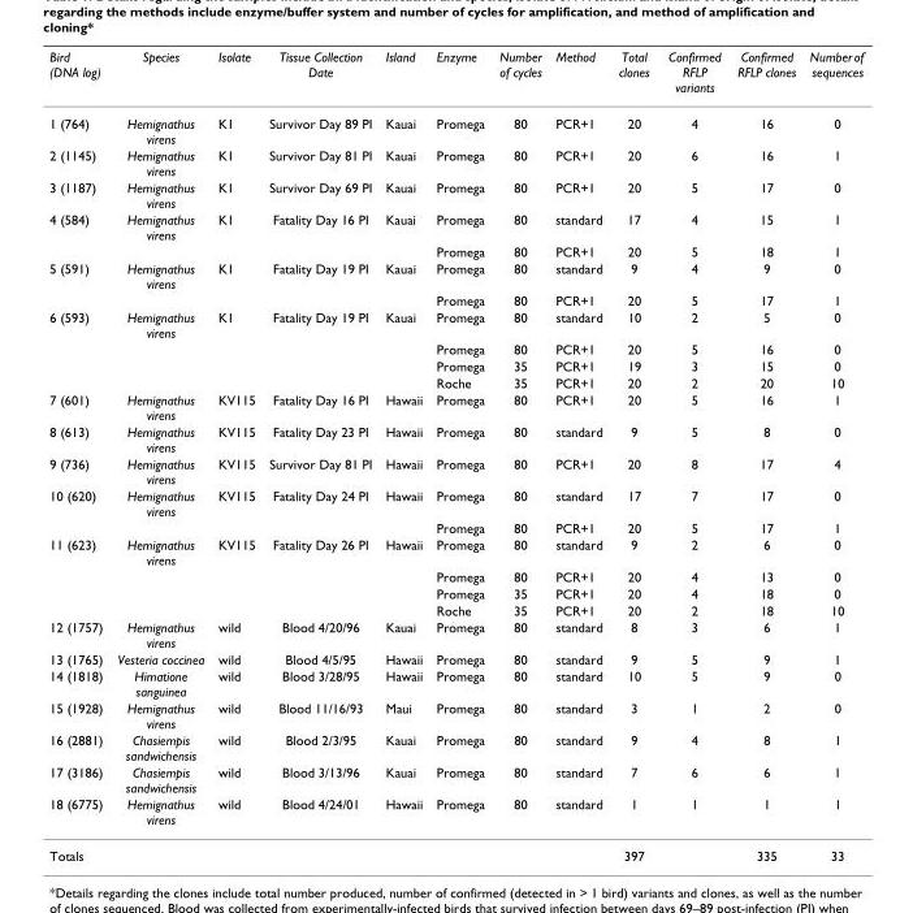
<table><thead><tr><td>Bird (DNA log)</td><td>Species</td><td>Isolate</td><td>Tissue Collection Date</td><td>Island</td><td>Enzyme</td><td>Number of cycles</td><td>Method</td><td>Total clones</td><td>Confirmed RFLP variants</td><td>Confirmed RFLP clones</td><td>Number of sequences</td></tr></thead><tbody><tr><td>1 (764)</td><td>Hemignathus virens</td><td>K1</td><td>Survivor Day 89 PI</td><td>Kauai</td><td>Promega</td><td>80</td><td>PCR+1</td><td>20</td><td>4</td><td>16</td><td>0</td></tr><tr><td>2 (1145)</td><td>Hemignathus virens</td><td>K1</td><td>Survivor Day 81 PI</td><td>Kauai</td><td>Promega</td><td>80</td><td>PCR+1</td><td>20</td><td>6</td><td>16</td><td>1</td></tr><tr><td>3 (1187)</td><td>Hemignathus virens</td><td>K1</td><td>Survivor Day 69 PI</td><td>Kauai</td><td>Promega</td><td>80</td><td>PCR+1</td><td>20</td><td>5</td><td>17</td><td>0</td></tr><tr><td rowspan="2">4 (584)</td><td>Hemignathus virens</td><td>K1</td><td>Fatality Day 16 PI</td><td>Kauai</td><td>Promega</td><td>80</td><td>standard</td><td>17</td><td>4</td><td>15</td><td>1</td></tr><tr><td></td><td></td><td></td><td></td><td>Promega</td><td>80</td><td>PCR+1</td><td>20</td><td>5</td><td>18</td><td>1</td></tr><tr><td rowspan="2">5 (591)</td><td>Hemignathus virens</td><td>K1</td><td>Fatality Day 19 PI</td><td>Kauai</td><td>Promega</td><td>80</td><td>standard</td><td>9</td><td>4</td><td>9</td><td>0</td></tr><tr><td></td><td></td><td></td><td></td><td>Promega</td><td>80</td><td>PCR+1</td><td>20</td><td>5</td><td>17</td><td>1</td></tr><tr><td rowspan="4">6 (593)</td><td>Hemignathus virens</td><td>K1</td><td>Fatality Day 19 PI</td><td>Kauai</td><td>Promega</td><td>80</td><td>standard</td><td>10</td><td>2</td><td>5</td><td>0</td></tr><tr><td></td><td></td><td></td><td></td><td>Promega</td><td>80</td><td>PCR+1</td><td>20</td><td>5</td><td>16</td><td>0</td></tr><tr><td></td><td></td><td></td><td></td><td>Promega</td><td>35</td><td>PCR+1</td><td>19</td><td>3</td><td>15</td><td>0</td></tr><tr><td></td><td></td><td></td><td></td><td>Roche</td><td>35</td><td>PCR+1</td><td>20</td><td>2</td><td>20</td><td>10</td></tr><tr><td>7 (601)</td><td>Hemignathus virens</td><td>KV115</td><td>Fatality Day 16 PI</td><td>Hawaii</td><td>Promega</td><td>80</td><td>PCR+1</td><td>20</td><td>5</td><td>16</td><td>1</td></tr><tr><td>8 (613)</td><td>Hemignathus virens</td><td>KV115</td><td>Fatality Day 23 PI</td><td>Hawaii</td><td>Promega</td><td>80</td><td>standard</td><td>9</td><td>5</td><td>8</td><td>0</td></tr><tr><td>9 (736)</td><td>Hemignathus virens</td><td>KV115</td><td>Survivor Day 81 PI</td><td>Hawaii</td><td>Promega</td><td>80</td><td>PCR+1</td><td>20</td><td>8</td><td>17</td><td>4</td></tr><tr><td rowspan="2">10 (620)</td><td>Hemignathus virens</td><td>KV115</td><td>Fatality Day 24 PI</td><td>Hawaii</td><td>Promega</td><td>80</td><td>standard</td><td>17</td><td>7</td><td>17</td><td>0</td></tr><tr><td></td><td></td><td></td><td></td><td>Promega</td><td>80</td><td>PCR+1</td><td>20</td><td>5</td><td>17</td><td>1</td></tr><tr><td rowspan="4">11 (623)</td><td>Hemignathus virens</td><td>KV115</td><td>Fatality Day 26 PI</td><td>Hawaii</td><td>Promega</td><td>80</td><td>standard</td><td>9</td><td>2</td><td>6</td><td>0</td></tr><tr><td></td><td></td><td></td><td></td><td>Promega</td><td>80</td><td>PCR+1</td><td>20</td><td>4</td><td>13</td><td>0</td></tr><tr><td></td><td></td><td></td><td></td><td>Promega</td><td>35</td><td>PCR+1</td><td>20</td><td>4</td><td>18</td><td>0</td></tr><tr><td></td><td></td><td></td><td></td><td>Roche</td><td>35</td><td>PCR+1</td><td>20</td><td>2</td><td>18</td><td>10</td></tr><tr><td>12 (1757)</td><td>Hemignathus virens</td><td>wild</td><td>Blood 4/20/96</td><td>Kauai</td><td>Promega</td><td>80</td><td>standard</td><td>8</td><td>3</td><td>6</td><td>1</td></tr><tr><td>13 (1765)</td><td>Vesteria coccinea</td><td>wild</td><td>Blood 4/5/95</td><td>Hawaii</td><td>Promega</td><td>80</td><td>standard</td><td>9</td><td>5</td><td>9</td><td>1</td></tr><tr><td>14 (1818)</td><td>Himatione sanguinea</td><td>wild</td><td>Blood 3/28/95</td><td>Hawaii</td><td>Promega</td><td>80</td><td>standard</td><td>10</td><td>5</td><td>9</td><td>0</td></tr><tr><td>15 (1928)</td><td>Hemignathus virens</td><td>wild</td><td>Blood 11/16/93</td><td>Maui</td><td>Promega</td><td>80</td><td>standard</td><td>3</td><td>1</td><td>2</td><td>0</td></tr><tr><td>16 (2881)</td><td>Chasiempis sandwichensis</td><td>wild</td><td>Blood 2/3/95</td><td>Kauai</td><td>Promega</td><td>80</td><td>standard</td><td>9</td><td>4</td><td>8</td><td>1</td></tr><tr><td>17 (3186)</td><td>Chasiempis sandwichensis</td><td>wild</td><td>Blood 3/13/96</td><td>Kauai</td><td>Promega</td><td>80</td><td>standard</td><td>7</td><td>6</td><td>6</td><td>1</td></tr><tr><td>18 (6775)</td><td>Hemignathus virens</td><td>wild</td><td>Blood 4/24/01</td><td>Hawaii</td><td>Promega</td><td>80</td><td>standard</td><td>1</td><td>1</td><td>1</td><td>1</td></tr><tr><td>Totals</td><td></td><td></td><td></td><td></td><td></td><td></td><td></td><td>397</td><td></td><td>335</td><td>33</td></tr></tbody></table>